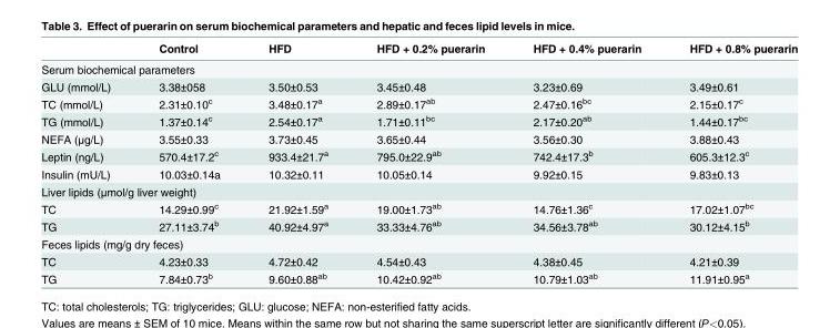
<table><thead><tr><td></td><td>Control</td><td>HFD</td><td>HFD + 0.2% puerarin</td><td>HFD + 0.4% puerarin</td><td>HFD + 0.8% puerarin</td></tr></thead><tbody><tr><td colspan="6">Serum biochemical parameters</td></tr><tr><td>GLU (mmol/L)</td><td>3.38±058</td><td>3.50±0.53</td><td>3.45±0.48</td><td>3.23±0.69</td><td>3.49±0.61</td></tr><tr><td>TC (mmol/L)</td><td>2.31±0.10<sup>c</sup></td><td>3.48±0.17<sup>a</sup></td><td>2.89±0.17<sup>ab</sup></td><td>2.47±0.16<sup>bc</sup></td><td>2.15±0.17<sup>c</sup></td></tr><tr><td>TG (mmol/L)</td><td>1.37±0.14<sup>c</sup></td><td>2.54±0.17<sup>a</sup></td><td>1.71±0.11<sup>bc</sup></td><td>2.17±0.20<sup>ab</sup></td><td>1.44±0.17<sup>bc</sup></td></tr><tr><td>NEFA (μg/L)</td><td>3.55±0.33</td><td>3.73±0.45</td><td>3.65±0.44</td><td>3.56±0.30</td><td>3.88±0.43</td></tr><tr><td>Leptin (ng/L)</td><td>570.4±17.2<sup>c</sup></td><td>933.4±21.7<sup>a</sup></td><td>795.0±22.9<sup>ab</sup></td><td>742.4±17.3<sup>b</sup></td><td>605.3±12.3<sup>c</sup></td></tr><tr><td>Insulin (mU/L)</td><td>10.03±0.14a</td><td>10.32±0.11</td><td>10.05±0.14</td><td>9.92±0.15</td><td>9.83±0.13</td></tr><tr><td colspan="6">Liver lipids (μmol/g liver weight)</td></tr><tr><td>TC</td><td>14.29±0.99<sup>c</sup></td><td>21.92±1.59<sup>a</sup></td><td>19.00±1.73<sup>ab</sup></td><td>14.76±1.36<sup>c</sup></td><td>17.02±1.07<sup>bc</sup></td></tr><tr><td>TG</td><td>27.11±3.74<sup>b</sup></td><td>40.92±4.97<sup>a</sup></td><td>33.33±4.76<sup>ab</sup></td><td>34.56±3.78<sup>ab</sup></td><td>30.12±4.15<sup>b</sup></td></tr><tr><td colspan="6">Feces lipids (mg/g dry feces)</td></tr><tr><td>TC</td><td>4.23±0.33</td><td>4.72±0.42</td><td>4.54±0.43</td><td>4.38±0.45</td><td>4.21±0.39</td></tr><tr><td>TG</td><td>7.84±0.73<sup>b</sup></td><td>9.60±0.88<sup>ab</sup></td><td>10.42±0.92<sup>ab</sup></td><td>10.79±1.03<sup>ab</sup></td><td>11.91±0.95<sup>a</sup></td></tr></tbody></table>